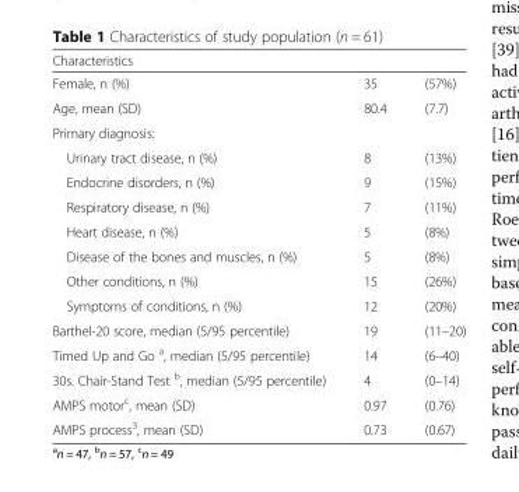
<table><thead><tr><td>Characteristics</td><td></td><td></td></tr></thead><tbody><tr><td>Female, n (%)</td><td>35</td><td>(57%)</td></tr><tr><td>Age, mean (SD)</td><td>80.4</td><td>(7.7)</td></tr><tr><td colspan="3">Primary diagnosis:</td></tr><tr><td>Urinary tract disease, n (%)</td><td>8</td><td>(13%)</td></tr><tr><td>Endocrine disorders, n (%)</td><td>9</td><td>(15%)</td></tr><tr><td>Respiratory disease, n (%)</td><td>7</td><td>(11%)</td></tr><tr><td>Heart disease, n (%)</td><td>5</td><td>(8%)</td></tr><tr><td>Disease of the bones and muscles, n (%)</td><td>5</td><td>(8%)</td></tr><tr><td>Other conditions, n (%)</td><td>15</td><td>(26%)</td></tr><tr><td>Symptoms of conditions, n (%)</td><td>12</td><td>(20%)</td></tr><tr><td>Barthel-20 score, median (5/95 percentile)</td><td>19</td><td>(11–20)</td></tr><tr><td>Timed Up and Go <sup>a</sup>, median (5/95 percentile)</td><td>14</td><td>(6–40)</td></tr><tr><td>30s. Chair-Stand Test <sup>b</sup>, median (5/95 percentile)</td><td>4</td><td>(0–14)</td></tr><tr><td>AMPS motor<sup>c</sup>, mean (SD)</td><td>0.97</td><td>(0.76)</td></tr><tr><td>AMPS process<sup>3</sup>, mean (SD)</td><td>0.73</td><td>(0.67)</td></tr></tbody></table>